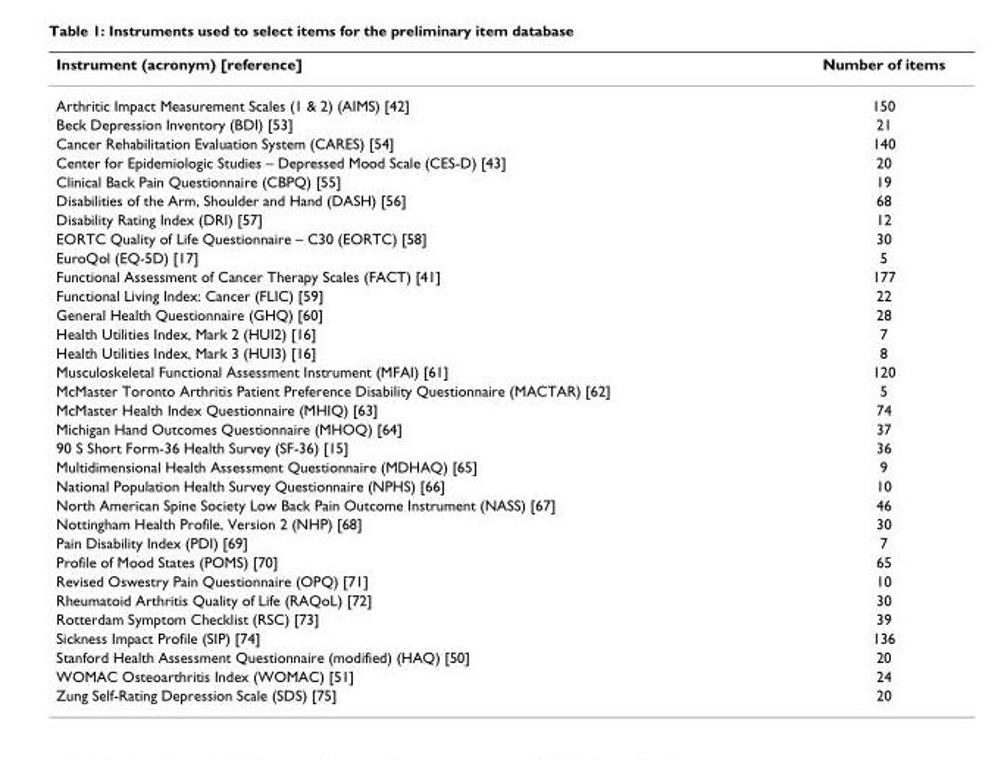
<table><thead><tr><td>Instrument (acronym) [reference]</td><td>Number of items</td></tr></thead><tbody><tr><td>Arthritic Impact Measurement Scales (1 &amp; 2) (AIMS) [42]</td><td>150</td></tr><tr><td>Beck Depression Inventory (BDI) [53]</td><td>21</td></tr><tr><td>Cancer Rehabilitation Evaluation System (CARES) [54]</td><td>140</td></tr><tr><td>Center for Epidemiologic Studies – Depressed Mood Scale (CES-D) [43]</td><td>20</td></tr><tr><td>Clinical Back Pain Questionnaire (CBPQ) [55]</td><td>19</td></tr><tr><td>Disabilities of the Arm, Shoulder and Hand (DASH) [56]</td><td>68</td></tr><tr><td>Disability Rating Index (DRI) [57]</td><td>12</td></tr><tr><td>EORTC Quality of Life Questionnaire – C30 (EORTC) [58]</td><td>30</td></tr><tr><td>EuroQol (EQ-5D) [17]</td><td>5</td></tr><tr><td>Functional Assessment of Cancer Therapy Scales (FACT) [41]</td><td>177</td></tr><tr><td>Functional Living Index: Cancer (FLIC) [59]</td><td>22</td></tr><tr><td>General Health Questionnaire (GHQ) [60]</td><td>28</td></tr><tr><td>Health Utilities Index, Mark 2 (HUI2) [16]</td><td>7</td></tr><tr><td>Health Utilities Index, Mark 3 (HUI3) [16]</td><td>8</td></tr><tr><td>Musculoskeletal Functional Assessment Instrument (MFAI) [61]</td><td>120</td></tr><tr><td>McMaster Toronto Arthritis Patient Preference Disability Questionnaire (MACTAR) [62]</td><td>5</td></tr><tr><td>McMaster Health Index Questionnaire (MHIQ) [63]</td><td>74</td></tr><tr><td>Michigan Hand Outcomes Questionnaire (MHOQ) [64]</td><td>37</td></tr><tr><td>90 S Short Form-36 Health Survey (SF-36) [15]</td><td>36</td></tr><tr><td>Multidimensional Health Assessment Questionnaire (MDHAQ) [65]</td><td>9</td></tr><tr><td>National Population Health Survey Questionnaire (NPHS) [66]</td><td>10</td></tr><tr><td>North American Spine Society Low Back Pain Outcome Instrument (NASS) [67]</td><td>46</td></tr><tr><td>Nottingham Health Profile, Version 2 (NHP) [68]</td><td>30</td></tr><tr><td>Pain Disability Index (PDI) [69]</td><td>7</td></tr><tr><td>Profile of Mood States (POMS) [70]</td><td>65</td></tr><tr><td>Revised Oswestry Pain Questionnaire (OPQ) [71]</td><td>10</td></tr><tr><td>Rheumatoid Arthritis Quality of Life (RAQoL) [72]</td><td>30</td></tr><tr><td>Rotterdam Symptom Checklist (RSC) [73]</td><td>39</td></tr><tr><td>Sickness Impact Profile (SIP) [74]</td><td>136</td></tr><tr><td>Stanford Health Assessment Questionnaire (modified) (HAQ) [50]</td><td>20</td></tr><tr><td>WOMAC Osteoarthritis Index (WOMAC) [51]</td><td>24</td></tr><tr><td>Zung Self-Rating Depression Scale (SDS) [75]</td><td>20</td></tr></tbody></table>